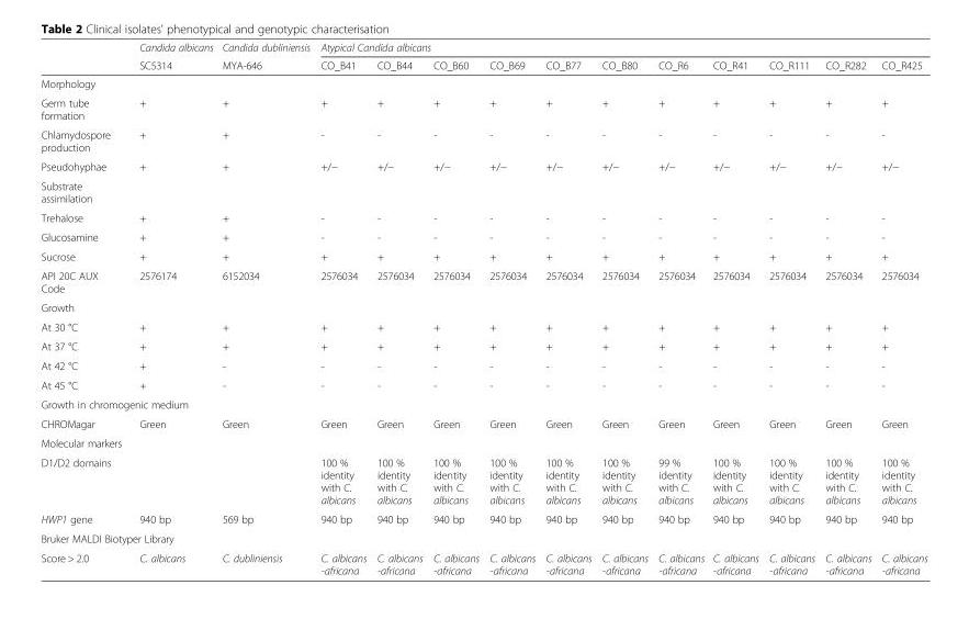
<table><thead><tr><td rowspan="2"></td><td rowspan="2">Candida albicans SC5314</td><td rowspan="2">Candida dubliniensis MYA-646</td><td colspan="11">Atypical Candida albicans</td></tr><tr><td>CO_B41</td><td>CO_B44</td><td>CO_B60</td><td>CO_B69</td><td>CO_B77</td><td>CO_B80</td><td>CO_R6</td><td>CO_R41</td><td>CO_R111</td><td>CO_R282</td><td>CO_R425</td></tr></thead><tbody><tr><td colspan="14">Morphology</td></tr><tr><td>Germ tube formation</td><td>+</td><td>+</td><td>+</td><td>+</td><td>+</td><td>+</td><td>+</td><td>+</td><td>+</td><td>+</td><td>+</td><td>+</td><td>+</td></tr><tr><td>Chlamydospore production</td><td>+</td><td>+</td><td>-</td><td>-</td><td>-</td><td>-</td><td>-</td><td>-</td><td>-</td><td>-</td><td>-</td><td>-</td><td>-</td></tr><tr><td>Pseudohyphae</td><td>+</td><td>+</td><td>+/−</td><td>+/−</td><td>+/−</td><td>+/−</td><td>+/−</td><td>+/−</td><td>+/−</td><td>+/−</td><td>+/−</td><td>+/−</td><td>+/−</td></tr><tr><td colspan="14">Substrate assimilation</td></tr><tr><td>Trehalose</td><td>+</td><td>+</td><td>-</td><td>-</td><td>-</td><td>-</td><td>-</td><td>-</td><td>-</td><td>-</td><td>-</td><td>-</td><td>-</td></tr><tr><td>Glucosamine</td><td>+</td><td>+</td><td>-</td><td>-</td><td>-</td><td>-</td><td>-</td><td>-</td><td>-</td><td>-</td><td>-</td><td>-</td><td>-</td></tr><tr><td>Sucrose</td><td>+</td><td>+</td><td>+</td><td>+</td><td>+</td><td>+</td><td>+</td><td>+</td><td>+</td><td>+</td><td>+</td><td>+</td><td>+</td></tr><tr><td>API 20C AUX Code</td><td>2576174</td><td>6152034</td><td>2576034</td><td>2576034</td><td>2576034</td><td>2576034</td><td>2576034</td><td>2576034</td><td>2576034</td><td>2576034</td><td>2576034</td><td>2576034</td><td>2576034</td></tr><tr><td colspan="14">Growth</td></tr><tr><td>At 30 °C</td><td>+</td><td>+</td><td>+</td><td>+</td><td>+</td><td>+</td><td>+</td><td>+</td><td>+</td><td>+</td><td>+</td><td>+</td><td>+</td></tr><tr><td>At 37 °C</td><td>+</td><td>+</td><td>+</td><td>+</td><td>+</td><td>+</td><td>+</td><td>+</td><td>+</td><td>+</td><td>+</td><td>+</td><td>+</td></tr><tr><td>At 42 °C</td><td>+</td><td>-</td><td>-</td><td>-</td><td>-</td><td>-</td><td>-</td><td>-</td><td>-</td><td>-</td><td>-</td><td>-</td><td>-</td></tr><tr><td>At 45 °C</td><td>+</td><td>-</td><td>-</td><td>-</td><td>-</td><td>-</td><td>-</td><td>-</td><td>-</td><td>-</td><td>-</td><td>-</td><td>-</td></tr><tr><td colspan="14">Growth in chromogenic medium</td></tr><tr><td>CHROMagar</td><td>Green</td><td>Green</td><td>Green</td><td>Green</td><td>Green</td><td>Green</td><td>Green</td><td>Green</td><td>Green</td><td>Green</td><td>Green</td><td>Green</td><td>Green</td></tr><tr><td colspan="14">Molecular markers</td></tr><tr><td>D1/D2 domains</td><td></td><td></td><td>100 % identity with C. albicans</td><td>100 % identity with C. albicans</td><td>100 % identity with C. albicans</td><td>100 % identity with C. albicans</td><td>100 % identity with C. albicans</td><td>100 % identity with C. albicans</td><td>99 % identity with C. albicans</td><td>100 % identity with C. albicans</td><td>100 % identity with C. albicans</td><td>100 % identity with C. albicans</td><td>100 % identity with C. albicans</td></tr><tr><td>HWP1 gene</td><td>940 bp</td><td>569 bp</td><td>940 bp</td><td>940 bp</td><td>940 bp</td><td>940 bp</td><td>940 bp</td><td>940 bp</td><td>940 bp</td><td>940 bp</td><td>940 bp</td><td>940 bp</td><td>940 bp</td></tr><tr><td colspan="14">Bruker MALDI Biotyper Library</td></tr><tr><td>Score &gt; 2.0</td><td>C. albicans</td><td>C. dubliniensis</td><td>C. albicans -africana</td><td>C. albicans -africana</td><td>C. albicans -africana</td><td>C. albicans -africana</td><td>C. albicans -africana</td><td>C. albicans -africana</td><td>C. albicans -africana</td><td>C. albicans -africana</td><td>C. albicans -africana</td><td>C. albicans -africana</td><td>C. albicans -africana</td></tr></tbody></table>